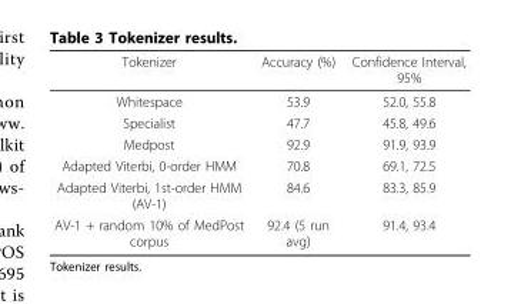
<table><thead><tr><td>Tokenizer</td><td>Accuracy (%)</td><td>Confidence Interval, 95%</td></tr></thead><tbody><tr><td>Whitespace</td><td>53.9</td><td>52.0, 55.8</td></tr><tr><td>Specialist</td><td>47.7</td><td>45.8, 49.6</td></tr><tr><td>Medpost</td><td>92.9</td><td>91.9, 93.9</td></tr><tr><td>Adapted Viterbi, 0-order HMM</td><td>70.8</td><td>69.1, 72.5</td></tr><tr><td>Adapted Viterbi, 1st-order HMM (AV-1)</td><td>84.6</td><td>83.3, 85.9</td></tr><tr><td>AV-1 + random 10% of MedPost corpus</td><td>92.4 (5 run avg)</td><td>91.4, 93.4</td></tr></tbody></table>